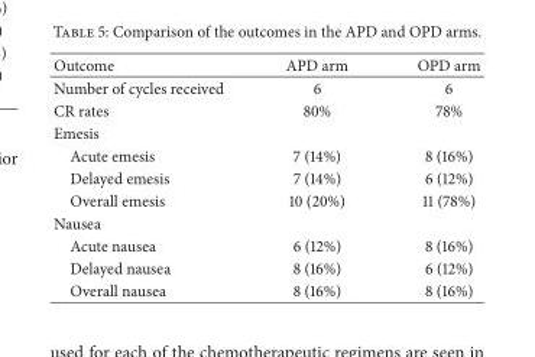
<table><thead><tr><td>Outcome</td><td>APD arm</td><td>OPD arm</td></tr></thead><tbody><tr><td>Number of cycles received</td><td>6</td><td>6</td></tr><tr><td>CR rates</td><td>80%</td><td>78%</td></tr><tr><td colspan="3">Emesis</td></tr><tr><td>Acute emesis</td><td>7 (14%)</td><td>8 (16%)</td></tr><tr><td>Delayed emesis</td><td>7 (14%)</td><td>6 (12%)</td></tr><tr><td>Overall emesis</td><td>10 (20%)</td><td>11 (78%)</td></tr><tr><td colspan="3">Nausea</td></tr><tr><td>Acute nausea</td><td>6 (12%)</td><td>8 (16%)</td></tr><tr><td>Delayed nausea</td><td>8 (16%)</td><td>6 (12%)</td></tr><tr><td>Overall nausea</td><td>8 (16%)</td><td>8 (16%)</td></tr></tbody></table>